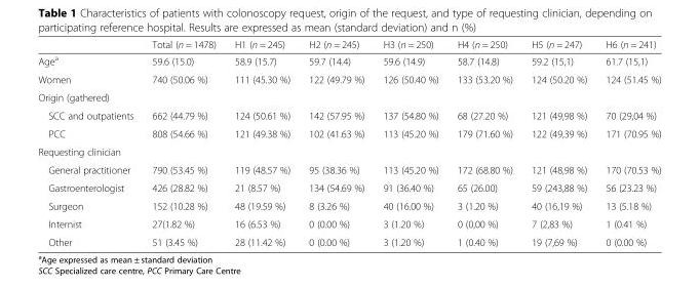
<table><thead><tr><td></td><td>Total (n = 1478)</td><td>H1 (n = 245)</td><td>H2 (n = 245)</td><td>H3 (n = 250)</td><td>H4 (n = 250)</td><td>H5 (n = 247)</td><td>H6 (n = 241)</td></tr></thead><tbody><tr><td>Age<sup>a</sup></td><td>59.6 (15.0)</td><td>58.9 (15.7)</td><td>59.7 (14.4)</td><td>59.6 (14.9)</td><td>58.7 (14.8)</td><td>59.2 (15,1)</td><td>61.7 (15,1)</td></tr><tr><td>Women</td><td>740 (50.06 %)</td><td>111 (45.30 %)</td><td>122 (49.79 %)</td><td>126 (50.40 %)</td><td>133 (53.20 %)</td><td>124 (50.20 %)</td><td>124 (51.45 %)</td></tr><tr><td colspan="8">Origin (gathered)</td></tr><tr><td>SCC and outpatients</td><td>662 (44.79 %)</td><td>124 (50.61 %)</td><td>142 (57.95 %)</td><td>137 (54.80 %)</td><td>68 (27.20 %)</td><td>121 (49,98 %)</td><td>70 (29,04 %)</td></tr><tr><td>PCC</td><td>808 (54.66 %)</td><td>121 (49.38 %)</td><td>102 (41.63 %)</td><td>113 (45.20 %)</td><td>179 (71.60 %)</td><td>122 (49,39 %)</td><td>171 (70.95 %)</td></tr><tr><td colspan="8">Requesting clinician</td></tr><tr><td>General practitioner</td><td>790 (53.45 %)</td><td>119 (48.57 %)</td><td>95 (38.36 %)</td><td>113 (45.20 %)</td><td>172 (68.80 %)</td><td>121 (48,98 %)</td><td>170 (70.53 %)</td></tr><tr><td>Gastroenterologist</td><td>426 (28.82 %)</td><td>21 (8.57 %)</td><td>134 (54.69 %)</td><td>91 (36.40 %)</td><td>65 (26.00)</td><td>59 (243,88 %)</td><td>56 (23.23 %)</td></tr><tr><td>Surgeon</td><td>152 (10.28 %)</td><td>48 (19.59 %)</td><td>8 (3.26 %)</td><td>40 (16.00 %)</td><td>3 (1.20 %)</td><td>40 (16,19 %)</td><td>13 (5.18 %)</td></tr><tr><td>Internist</td><td>27(1.82 %)</td><td>16 (6.53 %)</td><td>0 (0.00 %)</td><td>3 (1.20 %)</td><td>0 (0,00 %)</td><td>7 (2,83 %)</td><td>1 (0.41 %)</td></tr><tr><td>Other</td><td>51 (3.45 %)</td><td>28 (11.42 %)</td><td>0 (0.00 %)</td><td>3 (1.20 %)</td><td>1 (0.40 %)</td><td>19 (7,69 %)</td><td>0 (0.00 %)</td></tr></tbody></table>